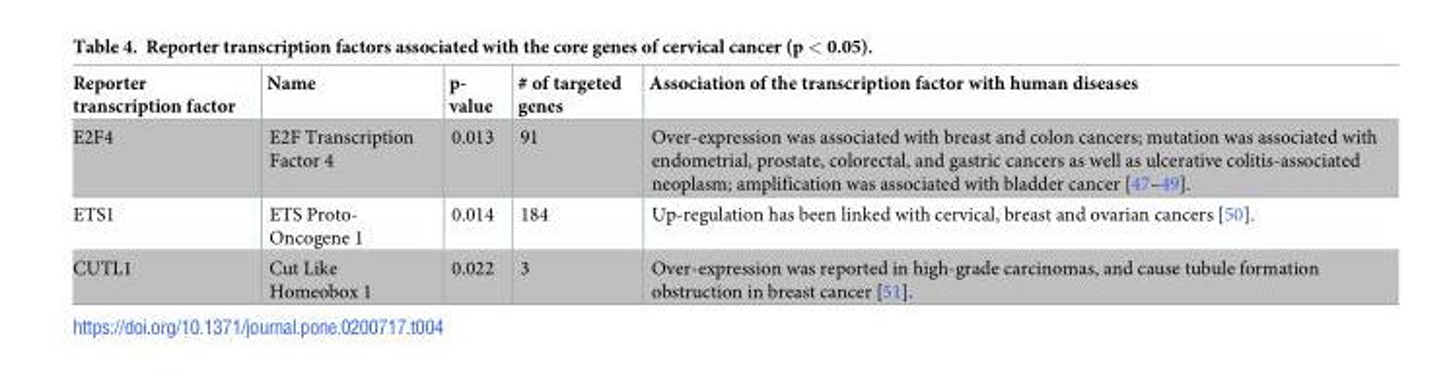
<table><thead><tr><td>Reporter transcription factor</td><td>Name</td><td>p- value</td><td># of targeted genes</td><td>Association of the transcription factor with human diseases</td></tr></thead><tbody><tr><td>E2F4</td><td>E2F Transcription Factor 4</td><td>0.013</td><td>91</td><td>Over-expression was associated with breast and colon cancers; mutation was associated with endometrial, prostate, colorectal, and gastric cancers as well as ulcerative colitis-associated neoplasm; amplification was associated with bladder cancer [47–49].</td></tr><tr><td>ETS1</td><td>ETS Proto- Oncogene 1</td><td>0.014</td><td>184</td><td>Up-regulation has been linked with cervical, breast and ovarian cancers [50].</td></tr><tr><td>CUTL1</td><td>Cut Like Homeobox 1</td><td>0.022</td><td>3</td><td>Over-expression was reported in high-grade carcinomas, and cause tubule formation obstruction in breast cancer [51].</td></tr></tbody></table>